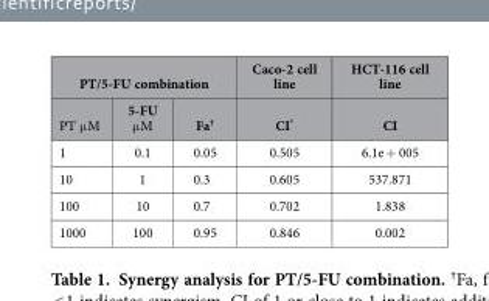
<table><thead><tr><td colspan="3">PT/5-FU combination</td><td rowspan="2">Caco-2 cell line CI*</td><td rowspan="2">HCT-116 cell line CI</td></tr><tr><td>PT μ M</td><td>5-FU μ M</td><td>Fa†</td></tr></thead><tbody><tr><td>1</td><td>0.1</td><td>0.05</td><td>0.505</td><td>6.1e + 005</td></tr><tr><td>10</td><td>1</td><td>0.3</td><td>0.605</td><td>537.871</td></tr><tr><td>100</td><td>10</td><td>0.7</td><td>0.702</td><td>1.838</td></tr><tr><td>1000</td><td>100</td><td>0.95</td><td>0.846</td><td>0.002</td></tr></tbody></table>